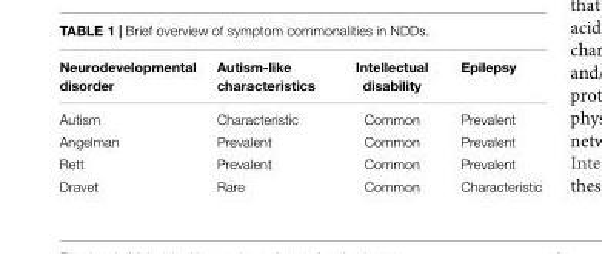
<table><thead><tr><td>Neurodevelopmental disorder</td><td>Autism-like characteristics</td><td>Intellectual disability</td><td>Epilepsy</td></tr></thead><tbody><tr><td>Autism</td><td>Characteristic</td><td>Common</td><td>Prevalent</td></tr><tr><td>Angelman</td><td>Prevalent</td><td>Common</td><td>Prevalent</td></tr><tr><td>Rett</td><td>Prevalent</td><td>Common</td><td>Prevalent</td></tr><tr><td>Dravet</td><td>Rare</td><td>Common</td><td>Characteristic</td></tr></tbody></table>